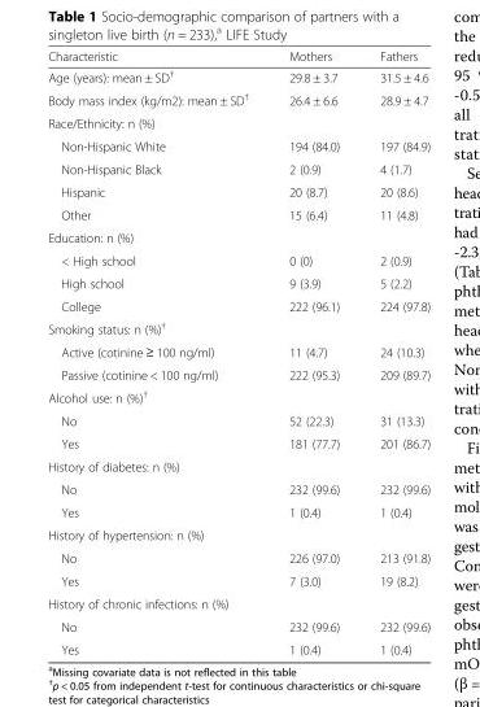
<table><thead><tr><td>Characteristic</td><td>Mothers</td><td>Fathers</td></tr></thead><tbody><tr><td>Age (years): mean ± SD<sup>†</sup></td><td>29.8 ± 3.7</td><td>31.5 ± 4.6</td></tr><tr><td>Body mass index (kg/m2): mean ± SD<sup>†</sup></td><td>26.4 ± 6.6</td><td>28.9 ± 4.7</td></tr><tr><td colspan="3">Race/Ethnicity: n (%)</td></tr><tr><td>Non-Hispanic White</td><td>194 (84.0)</td><td>197 (84.9)</td></tr><tr><td>Non-Hispanic Black</td><td>2 (0.9)</td><td>4 (1.7)</td></tr><tr><td>Hispanic</td><td>20 (8.7)</td><td>20 (8.6)</td></tr><tr><td>Other</td><td>15 (6.4)</td><td>11 (4.8)</td></tr><tr><td colspan="3">Education: n (%)</td></tr><tr><td>&lt; High school</td><td>0 (0)</td><td>2 (0.9)</td></tr><tr><td>High school</td><td>9 (3.9)</td><td>5 (2.2)</td></tr><tr><td>College</td><td>222 (96.1)</td><td>224 (97.8)</td></tr><tr><td colspan="3">Smoking status: n (%)<sup>†</sup></td></tr><tr><td>Active (cotinine ≥ 100 ng/ml)</td><td>11 (4.7)</td><td>24 (10.3)</td></tr><tr><td>Passive (cotinine &lt; 100 ng/ml)</td><td>222 (95.3)</td><td>209 (89.7)</td></tr><tr><td colspan="3">Alcohol use: n (%)<sup>†</sup></td></tr><tr><td>No</td><td>52 (22.3)</td><td>31 (13.3)</td></tr><tr><td>Yes</td><td>181 (77.7)</td><td>201 (86.7)</td></tr><tr><td colspan="3">History of diabetes: n (%)</td></tr><tr><td>No</td><td>232 (99.6)</td><td>232 (99.6)</td></tr><tr><td>Yes</td><td>1 (0.4)</td><td>1 (0.4)</td></tr><tr><td colspan="3">History of hypertension: n (%)</td></tr><tr><td>No</td><td>226 (97.0)</td><td>213 (91.8)</td></tr><tr><td>Yes</td><td>7 (3.0)</td><td>19 (8.2)</td></tr><tr><td colspan="3">History of chronic infections: n (%)</td></tr><tr><td>No</td><td>232 (99.6)</td><td>232 (99.6)</td></tr><tr><td>Yes</td><td>1 (0.4)</td><td>1 (0.4)</td></tr></tbody></table>